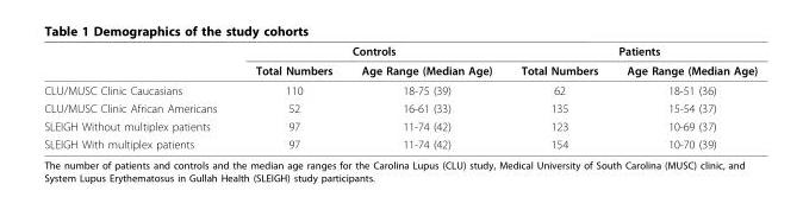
<table><thead><tr><td rowspan="2"></td><td colspan="2">Controls</td><td colspan="2">Patients</td></tr><tr><td>Total Numbers</td><td>Age Range (Median Age)</td><td>Total Numbers</td><td>Age Range (Median Age)</td></tr></thead><tbody><tr><td>CLU/MUSC Clinic Caucasians</td><td>110</td><td>18-75 (39)</td><td>62</td><td>18-51 (36)</td></tr><tr><td>CLU/MUSC Clinic African Americans</td><td>52</td><td>16-61 (33)</td><td>135</td><td>15-54 (37)</td></tr><tr><td>SLEIGH Without multiplex patients</td><td>97</td><td>11-74 (42)</td><td>123</td><td>10-69 (37)</td></tr><tr><td>SLEIGH With multiplex patients</td><td>97</td><td>11-74 (42)</td><td>154</td><td>10-70 (39)</td></tr></tbody></table>